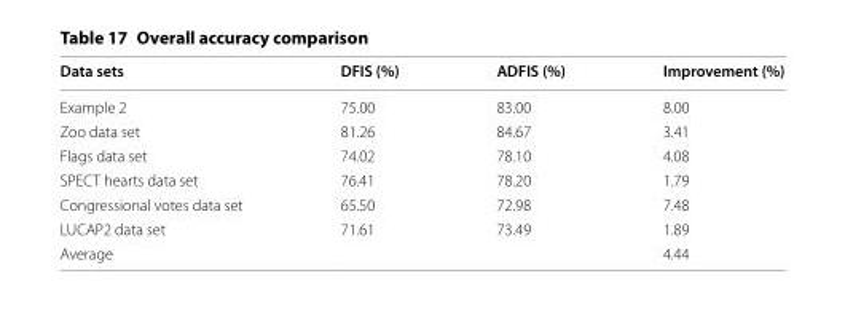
<table><thead><tr><td>Data sets</td><td>DFIS (%)</td><td>ADFIS (%)</td><td>Improvement (%)</td></tr></thead><tbody><tr><td>Example 2</td><td>75.00</td><td>83.00</td><td>8.00</td></tr><tr><td>Zoo data set</td><td>81.26</td><td>84.67</td><td>3.41</td></tr><tr><td>Flags data set</td><td>74.02</td><td>78.10</td><td>4.08</td></tr><tr><td>SPECT hearts data set</td><td>76.41</td><td>78.20</td><td>1.79</td></tr><tr><td>Congressional votes data set</td><td>65.50</td><td>72.98</td><td>7.48</td></tr><tr><td>LUCAP2 data set</td><td>71.61</td><td>73.49</td><td>1.89</td></tr><tr><td colspan="3">Average</td><td>4.44</td></tr></tbody></table>